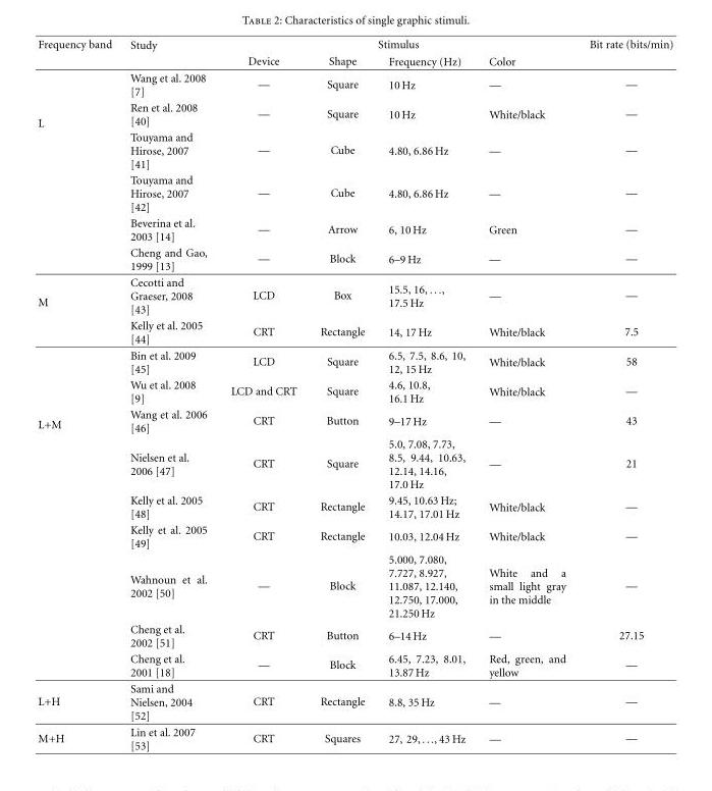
<table><thead><tr><td rowspan="2">Frequency band</td><td rowspan="2">Study</td><td colspan="4">Stimulus</td><td rowspan="2">Bit rate (bits/min)</td></tr><tr><td>Device</td><td>Shape</td><td>Frequency (Hz)</td><td>Color</td></tr></thead><tbody><tr><td rowspan="6">L</td><td>Wang et al. 2008 [7]</td><td>—</td><td>Square</td><td>10 Hz</td><td>—</td><td>—</td></tr><tr><td>Ren et al. 2008 [40]</td><td>—</td><td>Square</td><td>10 Hz</td><td>White/black</td><td>—</td></tr><tr><td>Touyama and Hirose, 2007 [41]</td><td>—</td><td>Cube</td><td>4.80, 6.86 Hz</td><td>—</td><td>—</td></tr><tr><td>Touyama and Hirose, 2007 [42]</td><td>—</td><td>Cube</td><td>4.80, 6.86 Hz</td><td>—</td><td>—</td></tr><tr><td>Beverina et al. 2003 [14]</td><td>—</td><td>Arrow</td><td>6, 10 Hz</td><td>Green</td><td>—</td></tr><tr><td>Cheng and Gao, 1999 [13]</td><td>—</td><td>Block</td><td>6–9 Hz</td><td>—</td><td>—</td></tr><tr><td rowspan="2">M</td><td>Cecotti and Graeser, 2008 [43]</td><td>LCD</td><td>Box</td><td>15.5, 16, ..., 17.5 Hz</td><td>—</td><td>—</td></tr><tr><td>Kelly et al. 2005 [44]</td><td>CRT</td><td>Rectangle</td><td>14, 17 Hz</td><td>White/black</td><td>7.5</td></tr><tr><td rowspan="9">L+M</td><td>Bin et al. 2009 [45]</td><td>LCD</td><td>Square</td><td>6.5, 7.5, 8.6, 10, 12, 15 Hz</td><td>White/black</td><td>58</td></tr><tr><td>Wu et al. 2008 [9]</td><td>LCD and CRT</td><td>Square</td><td>4.6, 10.8, 16.1 Hz</td><td>White/black</td><td>—</td></tr><tr><td>Wang et al. 2006 [46]</td><td>CRT</td><td>Button</td><td>9–17 Hz</td><td>—</td><td>43</td></tr><tr><td>Nielsen et al. 2006 [47]</td><td>CRT</td><td>Square</td><td>5.0, 7.08, 7.73, 8.5, 9.44, 10.63, 12.14, 14.16, 17.0 Hz</td><td>—</td><td>21</td></tr><tr><td>Kelly et al. 2005 [48]</td><td>CRT</td><td>Rectangle</td><td>9.45, 10.63 Hz; 14.17, 17.01 Hz</td><td>White/black</td><td>—</td></tr><tr><td>Kelly et al. 2005 [49]</td><td>CRT</td><td>Rectangle</td><td>10.03, 12.04 Hz</td><td>White/black</td><td>—</td></tr><tr><td>Wahnoun et al. 2002 [50]</td><td>—</td><td>Block</td><td>5.000, 7.080, 7.727, 8.927, 11.087, 12.140, 12.750, 17.000, 21.250 Hz</td><td>White and a small light gray in the middle</td><td>—</td></tr><tr><td>Cheng et al. 2002 [51]</td><td>CRT</td><td>Button</td><td>6–14 Hz</td><td>—</td><td>27.15</td></tr><tr><td>Cheng et al. 2001 [18]</td><td>—</td><td>Block</td><td>6.45, 7.23, 8.01, 13.87 Hz</td><td>Red, green, and yellow</td><td>—</td></tr><tr><td>L+H</td><td>Sami and Nielsen, 2004 [52]</td><td>CRT</td><td>Rectangle</td><td>8.8, 35 Hz</td><td>—</td><td>—</td></tr><tr><td>M+H</td><td>Lin et al. 2007 [53]</td><td>CRT</td><td>Squares</td><td>27, 29, ..., 43 Hz</td><td>—</td><td>—</td></tr></tbody></table>